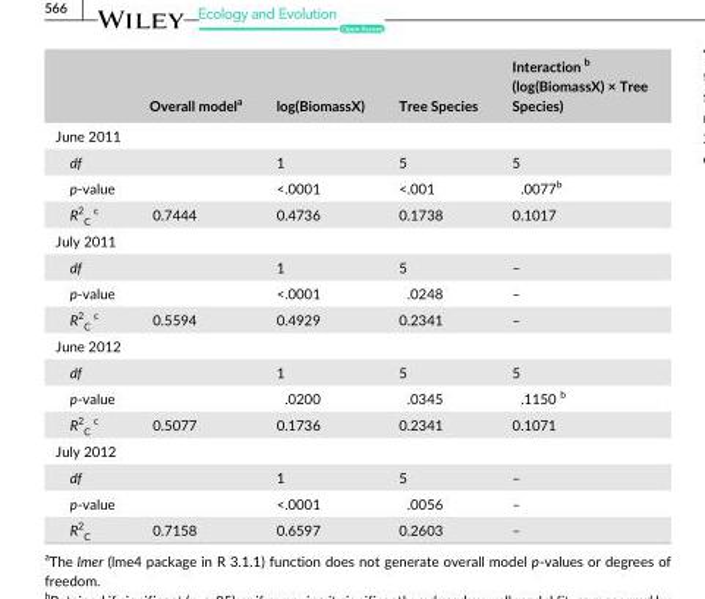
<table><thead><tr><td></td><td>Overall model<sup>a</sup></td><td>log(BiomassX)</td><td>Tree Species</td><td>Interaction b (log(BiomassX) × Tree Species)</td></tr></thead><tbody><tr><td colspan="5">June 2011</td></tr><tr><td>df</td><td></td><td>1</td><td>5</td><td>5</td></tr><tr><td>p- value</td><td></td><td>&lt;.0001</td><td>&lt;.001</td><td>.0077<sup>b</sup></td></tr><tr><td>R<sup>2</sup> <sub>C</sub> c</td><td>0.7444</td><td>0.4736</td><td>0.1738</td><td>0.1017</td></tr><tr><td colspan="5">July 2011</td></tr><tr><td>df</td><td></td><td>1</td><td>5</td><td>–</td></tr><tr><td>p- value</td><td></td><td>&lt;.0001</td><td>.0248</td><td>–</td></tr><tr><td>R<sup>2</sup> <sub>C</sub> c</td><td>0.5594</td><td>0.4929</td><td>0.2341</td><td>–</td></tr><tr><td colspan="5">June 2012</td></tr><tr><td>df</td><td></td><td>1</td><td>5</td><td>5</td></tr><tr><td>p- value</td><td></td><td>.0200</td><td>.0345</td><td>.1150 b</td></tr><tr><td>R<sup>2</sup> <sub>C</sub> c</td><td>0.5077</td><td>0.1736</td><td>0.2341</td><td>0.1071</td></tr><tr><td colspan="5">July 2012</td></tr><tr><td>df</td><td></td><td>1</td><td>5</td><td>–</td></tr><tr><td>p- value</td><td></td><td>&lt;.0001</td><td>.0056</td><td>–</td></tr><tr><td>R<sup>2</sup> <sub>C</sub></td><td>0.7158</td><td>0.6597</td><td>0.2603</td><td>–</td></tr></tbody></table>